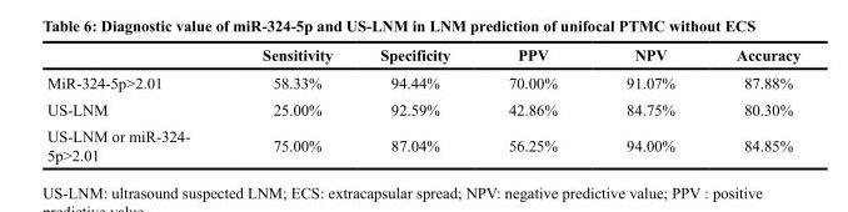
<table><thead><tr><td></td><td>Sensitivity</td><td>Specificity</td><td>PPV</td><td>NPV</td><td>Accuracy</td></tr></thead><tbody><tr><td>MiR-324-5p&gt;2.01</td><td>58.33%</td><td>94.44%</td><td>70.00%</td><td>91.07%</td><td>87.88%</td></tr><tr><td>US-LNM</td><td>25.00%</td><td>92.59%</td><td>42.86%</td><td>84.75%</td><td>80.30%</td></tr><tr><td>US-LNM or miR-324- 5p&gt;2.01</td><td>75.00%</td><td>87.04%</td><td>56.25%</td><td>94.00%</td><td>84.85%</td></tr></tbody></table>